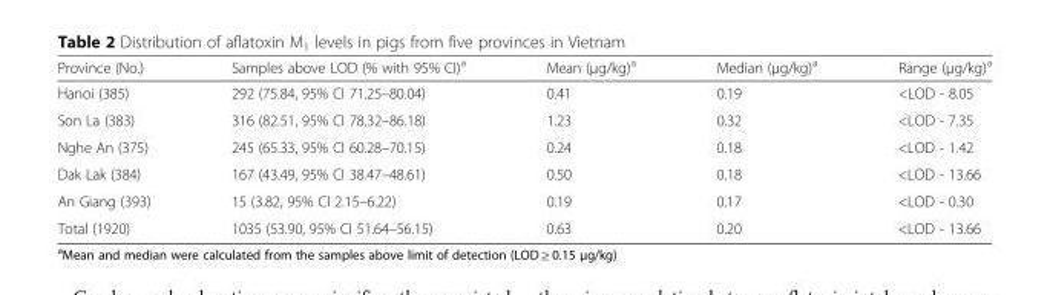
<table><thead><tr><td>Province (No.)</td><td>Samples above LOD (% with 95% CI)<sup>a</sup></td><td>Mean (μg/kg)<sup>a</sup></td><td>Median (μg/kg)<sup>a</sup></td><td>Range (μg/kg)<sup>a</sup></td></tr></thead><tbody><tr><td>Hanoi (385)</td><td>292 (75.84, 95% CI 71.25–80.04)</td><td>0.41</td><td>0.19</td><td>&lt;LOD - 8.05</td></tr><tr><td>Son La (383)</td><td>316 (82.51, 95% CI 78.32–86.18)</td><td>1.23</td><td>0.32</td><td>&lt;LOD - 7.35</td></tr><tr><td>Nghe An (375)</td><td>245 (65.33, 95% CI 60.28–70.15)</td><td>0.24</td><td>0.18</td><td>&lt;LOD - 1.42</td></tr><tr><td>Dak Lak (384)</td><td>167 (43.49, 95% CI 38.47–48.61)</td><td>0.50</td><td>0.18</td><td>&lt;LOD - 13.66</td></tr><tr><td>An Giang (393)</td><td>15 (3.82, 95% CI 2.15–6.22)</td><td>0.19</td><td>0.17</td><td>&lt;LOD - 0.30</td></tr><tr><td>Total (1920)</td><td>1035 (53.90, 95% CI 51.64–56.15)</td><td>0.63</td><td>0.20</td><td>&lt;LOD - 13.66</td></tr></tbody></table>